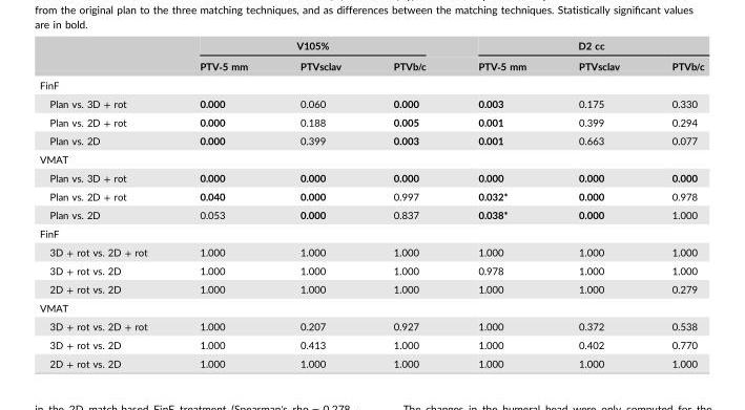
<table><thead><tr><td rowspan="2"></td><td colspan="3">V105%</td><td colspan="3">D2 cc</td></tr><tr><td>PTV‐5 mm</td><td>PTVsclav</td><td>PTVb/c</td><td>PTV‐5 mm</td><td>PTVsclav</td><td>PTVb/c</td></tr></thead><tbody><tr><td colspan="7">FinF</td></tr><tr><td>Plan vs. 3D + rot</td><td>0.000</td><td>0.060</td><td>0.000</td><td>0.003</td><td>0.175</td><td>0.330</td></tr><tr><td>Plan vs. 2D + rot</td><td>0.000</td><td>0.188</td><td>0.005</td><td>0.001</td><td>0.399</td><td>0.294</td></tr><tr><td>Plan vs. 2D</td><td>0.000</td><td>0.399</td><td>0.003</td><td>0.001</td><td>0.663</td><td>0.077</td></tr><tr><td colspan="7">VMAT</td></tr><tr><td>Plan vs. 3D + rot</td><td>0.000</td><td>0.000</td><td>0.000</td><td>0.000</td><td>0.000</td><td>0.000</td></tr><tr><td>Plan vs. 2D + rot</td><td>0.040</td><td>0.000</td><td>0.997</td><td>0.032*</td><td>0.000</td><td>0.978</td></tr><tr><td>Plan vs. 2D</td><td>0.053</td><td>0.000</td><td>0.837</td><td>0.038*</td><td>0.000</td><td>1.000</td></tr><tr><td colspan="7">FinF</td></tr><tr><td>3D + rot vs. 2D + rot</td><td>1.000</td><td>1.000</td><td>1.000</td><td>1.000</td><td>1.000</td><td>1.000</td></tr><tr><td>3D + rot vs. 2D</td><td>1.000</td><td>1.000</td><td>1.000</td><td>0.978</td><td>1.000</td><td>1.000</td></tr><tr><td>2D + rot vs. 2D</td><td>1.000</td><td>1.000</td><td>1.000</td><td>1.000</td><td>1.000</td><td>0.279</td></tr><tr><td colspan="7">VMAT</td></tr><tr><td>3D + rot vs. 2D + rot</td><td>1.000</td><td>0.207</td><td>0.927</td><td>1.000</td><td>0.372</td><td>0.538</td></tr><tr><td>3D + rot vs. 2D</td><td>1.000</td><td>0.413</td><td>1.000</td><td>1.000</td><td>0.402</td><td>0.770</td></tr><tr><td>2D + rot vs. 2D</td><td>1.000</td><td>1.000</td><td>1.000</td><td>1.000</td><td>1.000</td><td>1.000</td></tr></tbody></table>